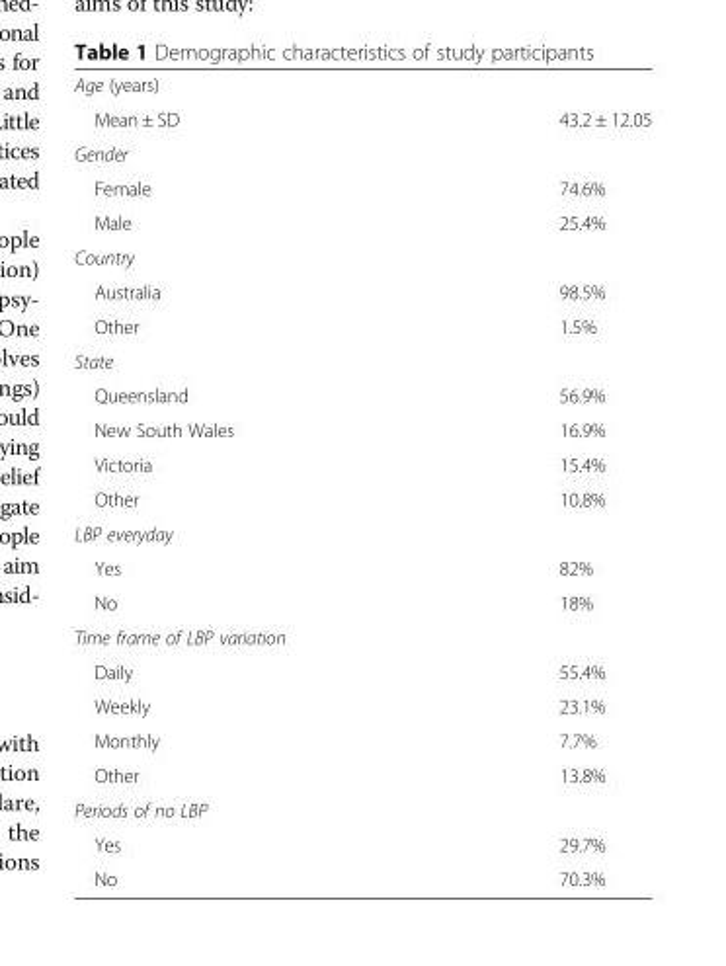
<table><tbody><tr><td colspan="2">Age (years)</td></tr><tr><td>Mean ± SD</td><td>43.2 ± 12.05</td></tr><tr><td colspan="2">Gender</td></tr><tr><td>Female</td><td>74.6%</td></tr><tr><td>Male</td><td>25.4%</td></tr><tr><td colspan="2">Country</td></tr><tr><td>Australia</td><td>98.5%</td></tr><tr><td>Other</td><td>1.5%</td></tr><tr><td colspan="2">State</td></tr><tr><td>Queensland</td><td>56.9%</td></tr><tr><td>New South Wales</td><td>16.9%</td></tr><tr><td>Victoria</td><td>15.4%</td></tr><tr><td>Other</td><td>10.8%</td></tr><tr><td colspan="2">LBP everyday</td></tr><tr><td>Yes</td><td>82%</td></tr><tr><td>No</td><td>18%</td></tr><tr><td colspan="2">Time frame of LBP variation</td></tr><tr><td>Daily</td><td>55.4%</td></tr><tr><td>Weekly</td><td>23.1%</td></tr><tr><td>Monthly</td><td>7.7%</td></tr><tr><td>Other</td><td>13.8%</td></tr><tr><td colspan="2">Periods of no LBP</td></tr><tr><td>Yes</td><td>29.7%</td></tr><tr><td>No</td><td>70.3%</td></tr></tbody></table>